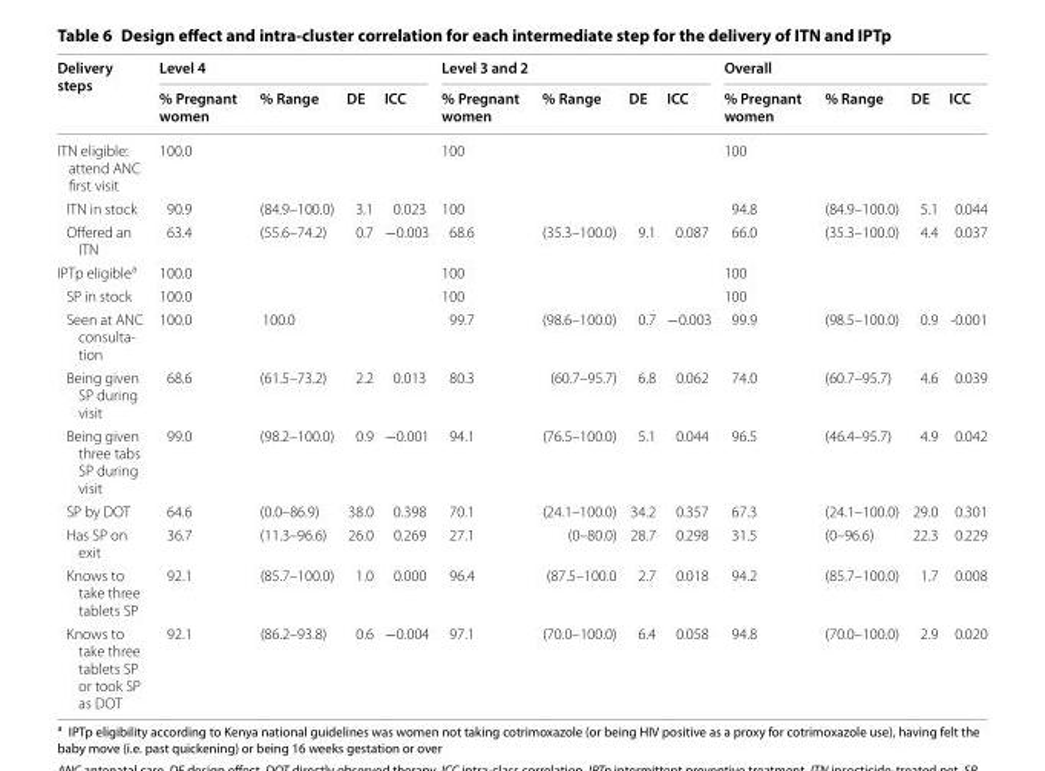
<table><thead><tr><td rowspan="2">Delivery steps</td><td colspan="4">Level 4</td><td colspan="4">Level 3 and 2</td><td colspan="4">Overall</td></tr><tr><td>% Pregnant women</td><td>% Range</td><td>DE</td><td>ICC</td><td>% Pregnant women</td><td>% Range</td><td>DE</td><td>ICC</td><td>% Pregnant women</td><td>% Range</td><td>DE</td><td>ICC</td></tr></thead><tbody><tr><td>ITN eligible: attend ANC first visit</td><td>100.0</td><td></td><td></td><td></td><td>100</td><td></td><td></td><td></td><td>100</td><td></td><td></td><td></td></tr><tr><td>ITN in stock</td><td>90.9</td><td>(84.9–100.0)</td><td>3.1</td><td>0.023</td><td>100</td><td></td><td></td><td></td><td>94.8</td><td>(84.9–100.0)</td><td>5.1</td><td>0.044</td></tr><tr><td>Offered an ITN</td><td>63.4</td><td>(55.6–74.2)</td><td>0.7</td><td>−0.003</td><td>68.6</td><td>(35.3–100.0)</td><td>9.1</td><td>0.087</td><td>66.0</td><td>(35.3–100.0)</td><td>4.4</td><td>0.037</td></tr><tr><td>IPTp eligible<sup>a</sup></td><td>100.0</td><td></td><td></td><td></td><td>100</td><td></td><td></td><td></td><td>100</td><td></td><td></td><td></td></tr><tr><td>SP in stock</td><td>100.0</td><td></td><td></td><td></td><td>100</td><td></td><td></td><td></td><td>100</td><td></td><td></td><td></td></tr><tr><td>Seen at ANC consulta- tion</td><td>100.0</td><td>100.0</td><td></td><td></td><td>99.7</td><td>(98.6–100.0)</td><td>0.7</td><td>−0.003</td><td>99.9</td><td>(98.5–100.0)</td><td>0.9</td><td>-0.001</td></tr><tr><td>Being given SP during visit</td><td>68.6</td><td>(61.5–73.2)</td><td>2.2</td><td>0.013</td><td>80.3</td><td>(60.7–95.7)</td><td>6.8</td><td>0.062</td><td>74.0</td><td>(60.7–95.7)</td><td>4.6</td><td>0.039</td></tr><tr><td>Being given three tabs SP during visit</td><td>99.0</td><td>(98.2–100.0)</td><td>0.9</td><td>−0.001</td><td>94.1</td><td>(76.5–100.0)</td><td>5.1</td><td>0.044</td><td>96.5</td><td>(46.4–95.7)</td><td>4.9</td><td>0.042</td></tr><tr><td>SP by DOT</td><td>64.6</td><td>(0.0–86.9)</td><td>38.0</td><td>0.398</td><td>70.1</td><td>(24.1–100.0)</td><td>34.2</td><td>0.357</td><td>67.3</td><td>(24.1–100.0)</td><td>29.0</td><td>0.301</td></tr><tr><td>Has SP on exit</td><td>36.7</td><td>(11.3–96.6)</td><td>26.0</td><td>0.269</td><td>27.1</td><td>(0–80.0)</td><td>28.7</td><td>0.298</td><td>31.5</td><td>(0–96.6)</td><td>22.3</td><td>0.229</td></tr><tr><td>Knows to take three tablets SP</td><td>92.1</td><td>(85.7–100.0)</td><td>1.0</td><td>0.000</td><td>96.4</td><td>(87.5–100.0</td><td>2.7</td><td>0.018</td><td>94.2</td><td>(85.7–100.0)</td><td>1.7</td><td>0.008</td></tr><tr><td>Knows to take three tablets SP or took SP as DOT</td><td>92.1</td><td>(86.2–93.8)</td><td>0.6</td><td>−0.004</td><td>97.1</td><td>(70.0–100.0)</td><td>6.4</td><td>0.058</td><td>94.8</td><td>(70.0–100.0)</td><td>2.9</td><td>0.020</td></tr></tbody></table>